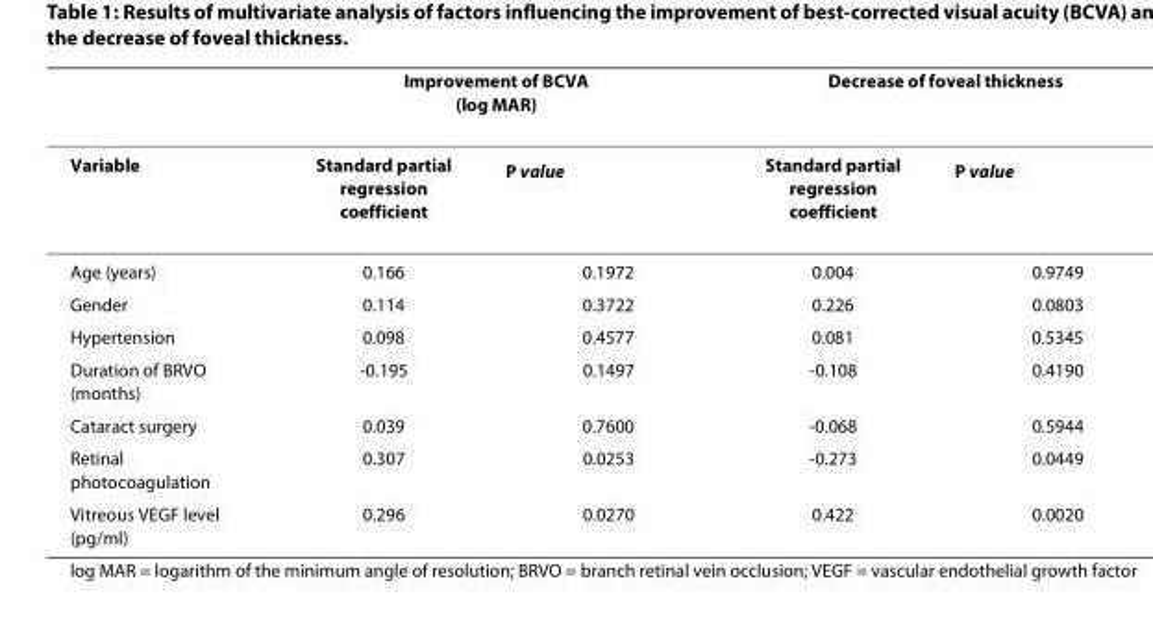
<table><thead><tr><td rowspan="2">Variable</td><td colspan="2">Improvement of BCVA (log MAR)</td><td colspan="2">Decrease of foveal thickness</td></tr><tr><td>Standard partial regression coefficient</td><td>P value</td><td>Standard partial regression coefficient</td><td>P value</td></tr></thead><tbody><tr><td>Age (years)</td><td>0.166</td><td>0.1972</td><td>0.004</td><td>0.9749</td></tr><tr><td>Gender</td><td>0.114</td><td>0.3722</td><td>0.226</td><td>0.0803</td></tr><tr><td>Hypertension</td><td>0.098</td><td>0.4577</td><td>0.081</td><td>0.5345</td></tr><tr><td>Duration of BRVO (months)</td><td>-0.195</td><td>0.1497</td><td>-0.108</td><td>0.4190</td></tr><tr><td>Cataract surgery</td><td>0.039</td><td>0.7600</td><td>-0.068</td><td>0.5944</td></tr><tr><td>Retinal photocoagulation</td><td>0.307</td><td>0.0253</td><td>-0.273</td><td>0.0449</td></tr><tr><td>Vitreous VEGF level (pg/ml)</td><td>0.296</td><td>0.0270</td><td>0.422</td><td>0.0020</td></tr></tbody></table>